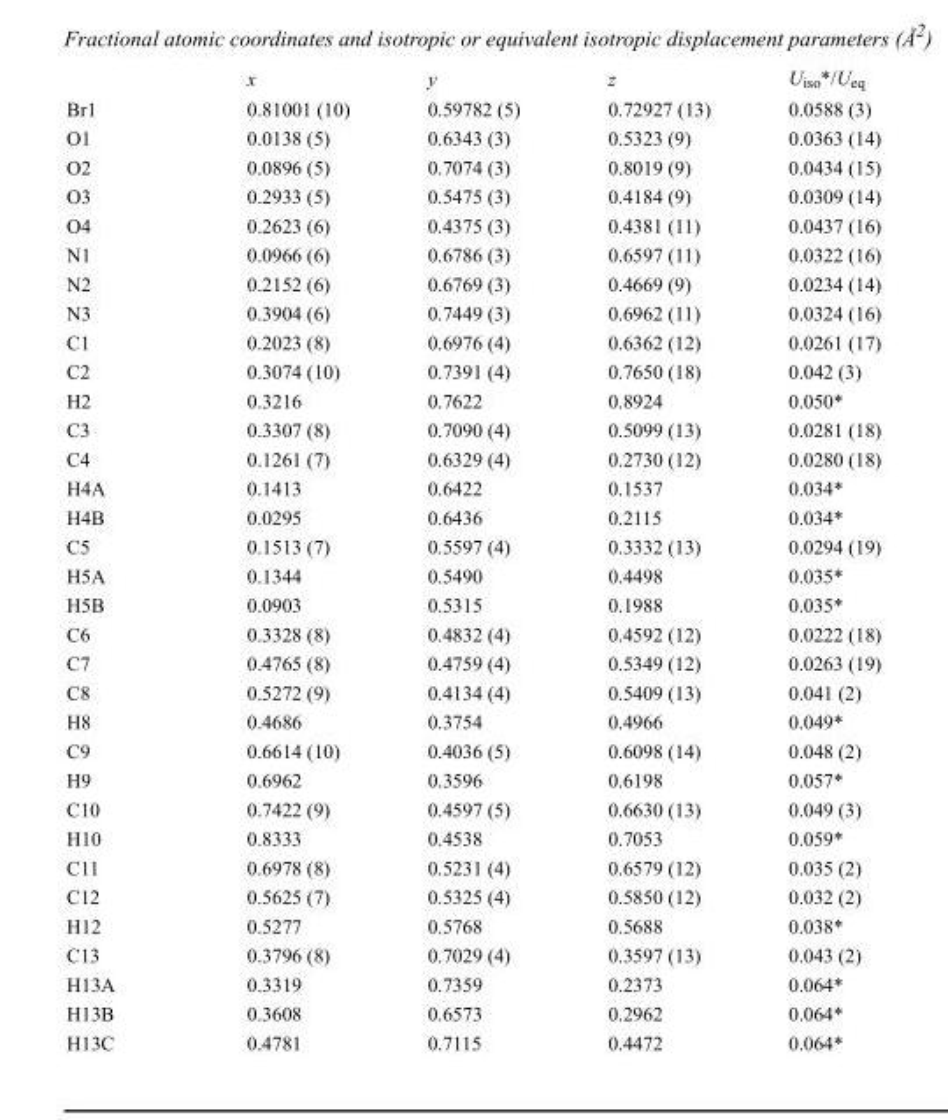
<table><thead><tr><td></td><td>x</td><td>y</td><td>z</td><td>U<sub>iso</sub>*/U<sub>eq</sub></td></tr></thead><tbody><tr><td>Br1</td><td>0.81001 (10)</td><td>0.59782 (5)</td><td>0.72927 (13)</td><td>0.0588 (3)</td></tr><tr><td>O1</td><td>0.0138 (5)</td><td>0.6343 (3)</td><td>0.5323 (9)</td><td>0.0363 (14)</td></tr><tr><td>O2</td><td>0.0896 (5)</td><td>0.7074 (3)</td><td>0.8019 (9)</td><td>0.0434 (15)</td></tr><tr><td>O3</td><td>0.2933 (5)</td><td>0.5475 (3)</td><td>0.4184 (9)</td><td>0.0309 (14)</td></tr><tr><td>O4</td><td>0.2623 (6)</td><td>0.4375 (3)</td><td>0.4381 (11)</td><td>0.0437 (16)</td></tr><tr><td>N1</td><td>0.0966 (6)</td><td>0.6786 (3)</td><td>0.6597 (11)</td><td>0.0322 (16)</td></tr><tr><td>N2</td><td>0.2152 (6)</td><td>0.6769 (3)</td><td>0.4669 (9)</td><td>0.0234 (14)</td></tr><tr><td>N3</td><td>0.3904 (6)</td><td>0.7449 (3)</td><td>0.6962 (11)</td><td>0.0324 (16)</td></tr><tr><td>C1</td><td>0.2023 (8)</td><td>0.6976 (4)</td><td>0.6362 (12)</td><td>0.0261 (17)</td></tr><tr><td>C2</td><td>0.3074 (10)</td><td>0.7391 (4)</td><td>0.7650 (18)</td><td>0.042 (3)</td></tr><tr><td>H2</td><td>0.3216</td><td>0.7622</td><td>0.8924</td><td>0.050*</td></tr><tr><td>C3</td><td>0.3307 (8)</td><td>0.7090 (4)</td><td>0.5099 (13)</td><td>0.0281 (18)</td></tr><tr><td>C4</td><td>0.1261 (7)</td><td>0.6329 (4)</td><td>0.2730 (12)</td><td>0.0280 (18)</td></tr><tr><td>H4A</td><td>0.1413</td><td>0.6422</td><td>0.1537</td><td>0.034*</td></tr><tr><td>H4B</td><td>0.0295</td><td>0.6436</td><td>0.2115</td><td>0.034*</td></tr><tr><td>C5</td><td>0.1513 (7)</td><td>0.5597 (4)</td><td>0.3332 (13)</td><td>0.0294 (19)</td></tr><tr><td>H5A</td><td>0.1344</td><td>0.5490</td><td>0.4498</td><td>0.035*</td></tr><tr><td>H5B</td><td>0.0903</td><td>0.5315</td><td>0.1988</td><td>0.035*</td></tr><tr><td>C6</td><td>0.3328 (8)</td><td>0.4832 (4)</td><td>0.4592 (12)</td><td>0.0222 (18)</td></tr><tr><td>C7</td><td>0.4765 (8)</td><td>0.4759 (4)</td><td>0.5349 (12)</td><td>0.0263 (19)</td></tr><tr><td>C8</td><td>0.5272 (9)</td><td>0.4134 (4)</td><td>0.5409 (13)</td><td>0.041 (2)</td></tr><tr><td>H8</td><td>0.4686</td><td>0.3754</td><td>0.4966</td><td>0.049*</td></tr><tr><td>C9</td><td>0.6614 (10)</td><td>0.4036 (5)</td><td>0.6098 (14)</td><td>0.048 (2)</td></tr><tr><td>H9</td><td>0.6962</td><td>0.3596</td><td>0.6198</td><td>0.057*</td></tr><tr><td>C10</td><td>0.7422 (9)</td><td>0.4597 (5)</td><td>0.6630 (13)</td><td>0.049 (3)</td></tr><tr><td>H10</td><td>0.8333</td><td>0.4538</td><td>0.7053</td><td>0.059*</td></tr><tr><td>C11</td><td>0.6978 (8)</td><td>0.5231 (4)</td><td>0.6579 (12)</td><td>0.035 (2)</td></tr><tr><td>C12</td><td>0.5625 (7)</td><td>0.5325 (4)</td><td>0.5850 (12)</td><td>0.032 (2)</td></tr><tr><td>H12</td><td>0.5277</td><td>0.5768</td><td>0.5688</td><td>0.038*</td></tr><tr><td>C13</td><td>0.3796 (8)</td><td>0.7029 (4)</td><td>0.3597 (13)</td><td>0.043 (2)</td></tr><tr><td>H13A</td><td>0.3319</td><td>0.7359</td><td>0.2373</td><td>0.064*</td></tr><tr><td>H13B</td><td>0.3608</td><td>0.6573</td><td>0.2962</td><td>0.064*</td></tr><tr><td>H13C</td><td>0.4781</td><td>0.7115</td><td>0.4472</td><td>0.064*</td></tr></tbody></table>